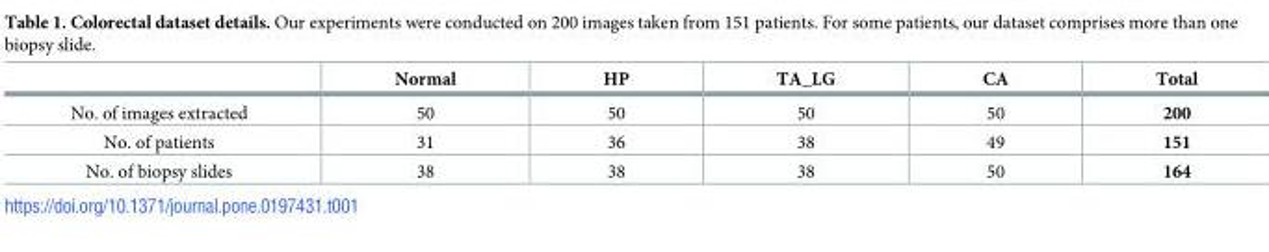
<table><thead><tr><td></td><td>Normal</td><td>HP</td><td>TA_LG</td><td>CA</td><td>Total</td></tr></thead><tbody><tr><td>No. of images extracted</td><td>50</td><td>50</td><td>50</td><td>50</td><td>200</td></tr><tr><td>No. of patients</td><td>31</td><td>36</td><td>38</td><td>49</td><td>151</td></tr><tr><td>No. of biopsy slides</td><td>38</td><td>38</td><td>38</td><td>50</td><td>164</td></tr></tbody></table>